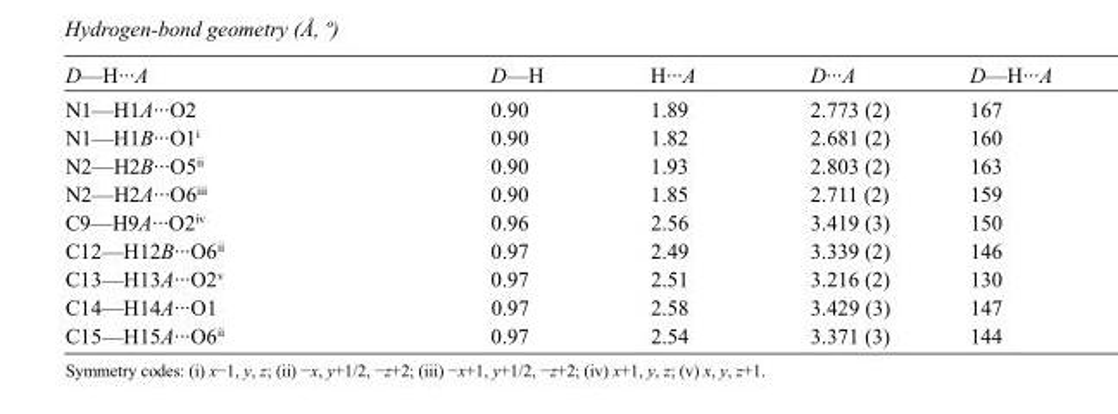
<table><tbody><tr><td>D—H···A</td><td>D—H</td><td>H···A</td><td>D···A</td><td>D—H···A</td></tr><tr><td>N1—H1A···O2</td><td>0.90</td><td>1.89</td><td>2.773 (2)</td><td>167</td></tr><tr><td>N1—H1B···O1<sup>i</sup></td><td>0.90</td><td>1.82</td><td>2.681 (2)</td><td>160</td></tr><tr><td>N2—H2B···O5<sup>ii</sup></td><td>0.90</td><td>1.93</td><td>2.803 (2)</td><td>163</td></tr><tr><td>N2—H2A···O6<sup>iii</sup></td><td>0.90</td><td>1.85</td><td>2.711 (2)</td><td>159</td></tr><tr><td>C9—H9A···O2<sup>iv</sup></td><td>0.96</td><td>2.56</td><td>3.419 (3)</td><td>150</td></tr><tr><td>C12—H12B···O6<sup>ii</sup></td><td>0.97</td><td>2.49</td><td>3.339 (2)</td><td>146</td></tr><tr><td>C13—H13A···O2<sup>v</sup></td><td>0.97</td><td>2.51</td><td>3.216 (2)</td><td>130</td></tr><tr><td>C14—H14A···O1</td><td>0.97</td><td>2.58</td><td>3.429 (3)</td><td>147</td></tr><tr><td>C15—H15A···O6<sup>ii</sup></td><td>0.97</td><td>2.54</td><td>3.371 (3)</td><td>144</td></tr></tbody></table>